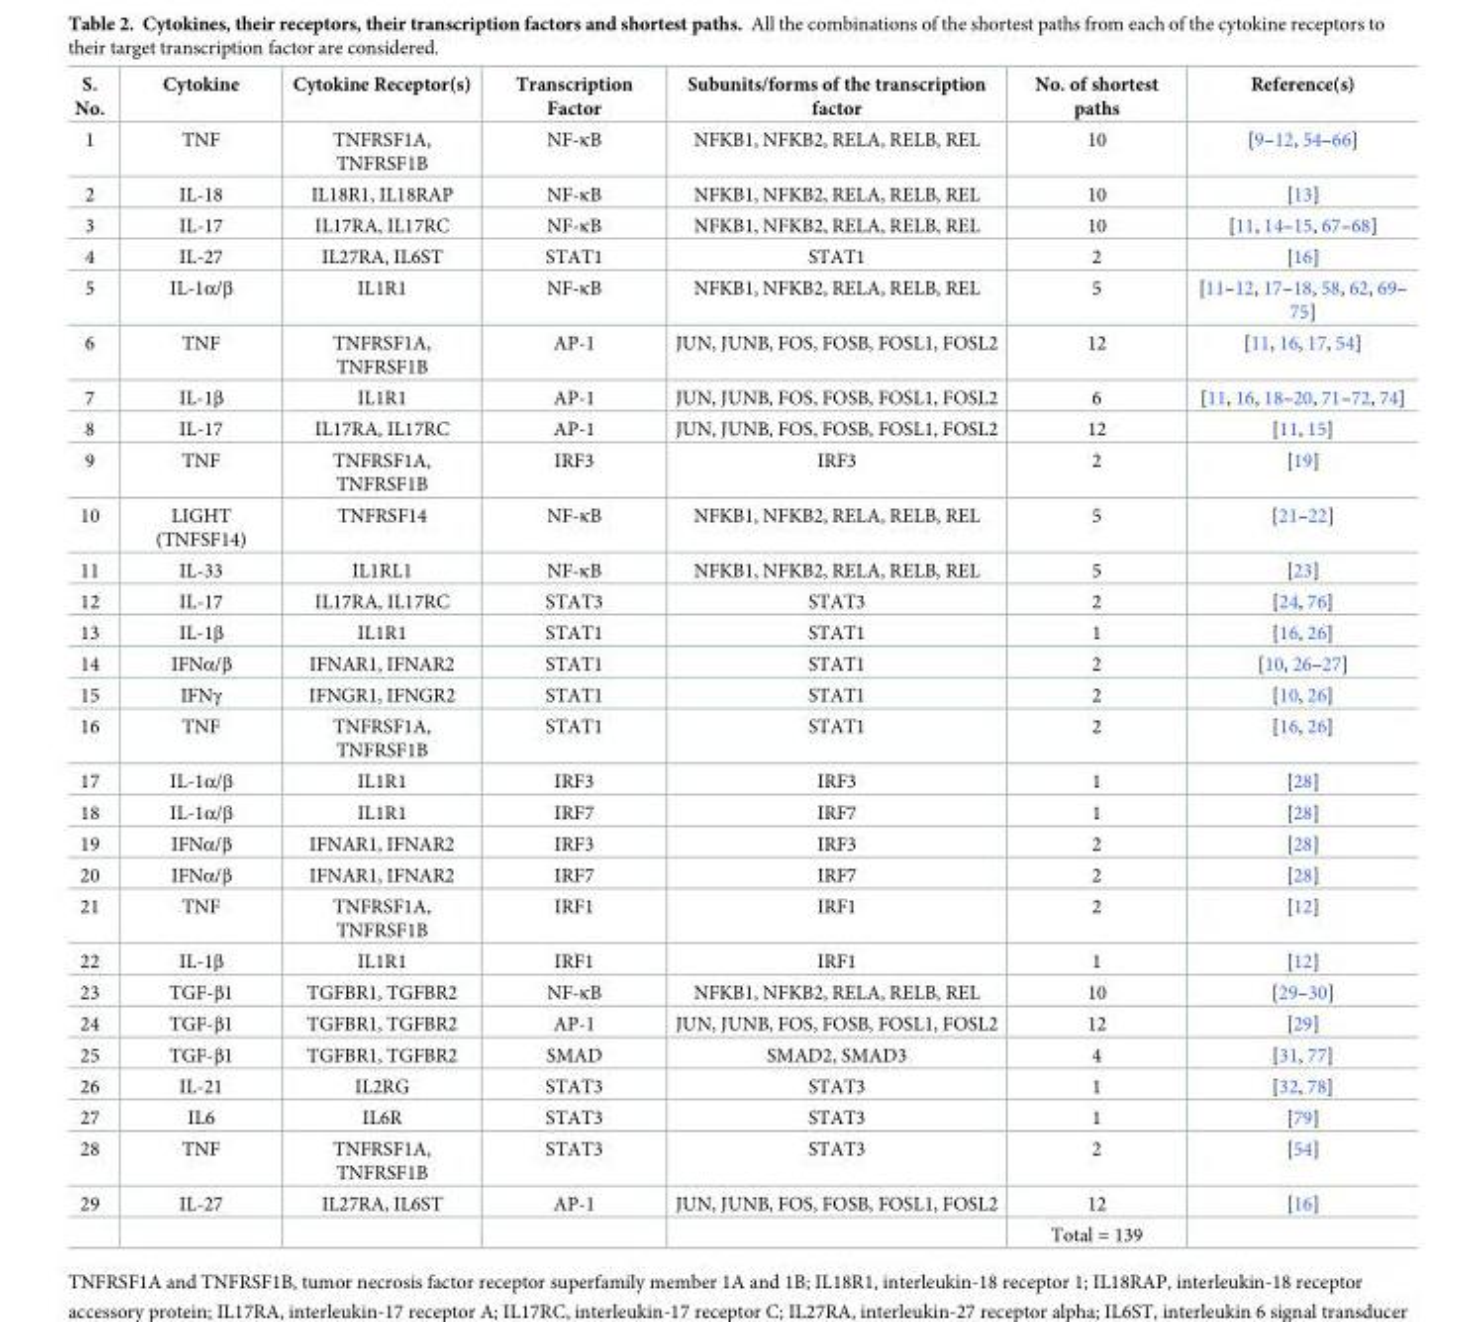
<table><thead><tr><td>S. No.</td><td>Cytokine</td><td>Cytokine Receptor(s)</td><td>Transcription Factor</td><td>Subunits/forms of the transcription factor</td><td>No. of shortest paths</td><td>Reference(s)</td></tr></thead><tbody><tr><td>1</td><td>TNF</td><td>TNFRSF1A, TNFRSF1B</td><td>NF-κB</td><td>NFKB1, NFKB2, RELA, RELB, REL</td><td>10</td><td>[9–12, 54–66]</td></tr><tr><td>2</td><td>IL-18</td><td>IL18R1, IL18RAP</td><td>NF-κB</td><td>NFKB1, NFKB2, RELA, RELB, REL</td><td>10</td><td>[13]</td></tr><tr><td>3</td><td>IL-17</td><td>IL17RA, IL17RC</td><td>NF-κB</td><td>NFKB1, NFKB2, RELA, RELB, REL</td><td>10</td><td>[11, 14–15, 67–68]</td></tr><tr><td>4</td><td>IL-27</td><td>IL27RA, IL6ST</td><td>STAT1</td><td>STAT1</td><td>2</td><td>[16]</td></tr><tr><td>5</td><td>IL-1α/β</td><td>IL1R1</td><td>NF-κB</td><td>NFKB1, NFKB2, RELA, RELB, REL</td><td>5</td><td>[11–12, 17–18, 58, 62, 69– 75]</td></tr><tr><td>6</td><td>TNF</td><td>TNFRSF1A, TNFRSF1B</td><td>AP-1</td><td>JUN, JUNB, FOS, FOSB, FOSL1, FOSL2</td><td>12</td><td>[11, 16, 17, 54]</td></tr><tr><td>7</td><td>IL-1β</td><td>IL1R1</td><td>AP-1</td><td>JUN, JUNB, FOS, FOSB, FOSL1, FOSL2</td><td>6</td><td>[11, 16, 18–20, 71–72, 74]</td></tr><tr><td>8</td><td>IL-17</td><td>IL17RA, IL17RC</td><td>AP-1</td><td>JUN, JUNB, FOS, FOSB, FOSL1, FOSL2</td><td>12</td><td>[11, 15]</td></tr><tr><td>9</td><td>TNF</td><td>TNFRSF1A, TNFRSF1B</td><td>IRF3</td><td>IRF3</td><td>2</td><td>[19]</td></tr><tr><td>10</td><td>LIGHT (TNFSF14)</td><td>TNFRSF14</td><td>NF-κB</td><td>NFKB1, NFKB2, RELA, RELB, REL</td><td>5</td><td>[21–22]</td></tr><tr><td>11</td><td>IL-33</td><td>IL1RL1</td><td>NF-κB</td><td>NFKB1, NFKB2, RELA, RELB, REL</td><td>5</td><td>[23]</td></tr><tr><td>12</td><td>IL-17</td><td>IL17RA, IL17RC</td><td>STAT3</td><td>STAT3</td><td>2</td><td>[24, 76]</td></tr><tr><td>13</td><td>IL-1β</td><td>IL1R1</td><td>STAT1</td><td>STAT1</td><td>1</td><td>[16, 26]</td></tr><tr><td>14</td><td>IFNα/β</td><td>IFNAR1, IFNAR2</td><td>STAT1</td><td>STAT1</td><td>2</td><td>[10, 26–27]</td></tr><tr><td>15</td><td>IFNγ</td><td>IFNGR1, IFNGR2</td><td>STAT1</td><td>STAT1</td><td>2</td><td>[10, 26]</td></tr><tr><td>16</td><td>TNF</td><td>TNFRSF1A, TNFRSF1B</td><td>STAT1</td><td>STAT1</td><td>2</td><td>[16, 26]</td></tr><tr><td>17</td><td>IL-1α/β</td><td>IL1R1</td><td>IRF3</td><td>IRF3</td><td>1</td><td>[28]</td></tr><tr><td>18</td><td>IL-1α/β</td><td>IL1R1</td><td>IRF7</td><td>IRF7</td><td>1</td><td>[28]</td></tr><tr><td>19</td><td>IFNα/β</td><td>IFNAR1, IFNAR2</td><td>IRF3</td><td>IRF3</td><td>2</td><td>[28]</td></tr><tr><td>20</td><td>IFNα/β</td><td>IFNAR1, IFNAR2</td><td>IRF7</td><td>IRF7</td><td>2</td><td>[28]</td></tr><tr><td>21</td><td>TNF</td><td>TNFRSF1A, TNFRSF1B</td><td>IRF1</td><td>IRF1</td><td>2</td><td>[12]</td></tr><tr><td>22</td><td>IL-1β</td><td>IL1R1</td><td>IRF1</td><td>IRF1</td><td>1</td><td>[12]</td></tr><tr><td>23</td><td>TGF-β1</td><td>TGFBR1, TGFBR2</td><td>NF-κB</td><td>NFKB1, NFKB2, RELA, RELB, REL</td><td>10</td><td>[29–30]</td></tr><tr><td>24</td><td>TGF-β1</td><td>TGFBR1, TGFBR2</td><td>AP-1</td><td>JUN, JUNB, FOS, FOSB, FOSL1, FOSL2</td><td>12</td><td>[29]</td></tr><tr><td>25</td><td>TGF-β1</td><td>TGFBR1, TGFBR2</td><td>SMAD</td><td>SMAD2, SMAD3</td><td>4</td><td>[31, 77]</td></tr><tr><td>26</td><td>IL-21</td><td>IL2RG</td><td>STAT3</td><td>STAT3</td><td>1</td><td>[32, 78]</td></tr><tr><td>27</td><td>IL6</td><td>IL6R</td><td>STAT3</td><td>STAT3</td><td>1</td><td>[79]</td></tr><tr><td>28</td><td>TNF</td><td>TNFRSF1A, TNFRSF1B</td><td>STAT3</td><td>STAT3</td><td>2</td><td>[54]</td></tr><tr><td rowspan="2">29</td><td>IL-27</td><td>IL27RA, IL6ST</td><td>AP-1</td><td>JUN, JUNB, FOS, FOSB, FOSL1, FOSL2</td><td>12</td><td>[16]</td></tr><tr><td></td><td></td><td></td><td></td><td>Total = 139</td><td></td></tr></tbody></table>